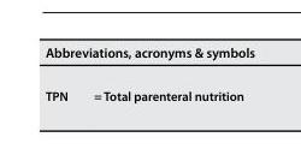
<table><thead><tr><td colspan="2">Abbreviations, acronyms &amp; symbols</td></tr><tr><td>TPN</td><td>= Total parenteral nutrition</td></tr></thead><tbody></tbody></table>